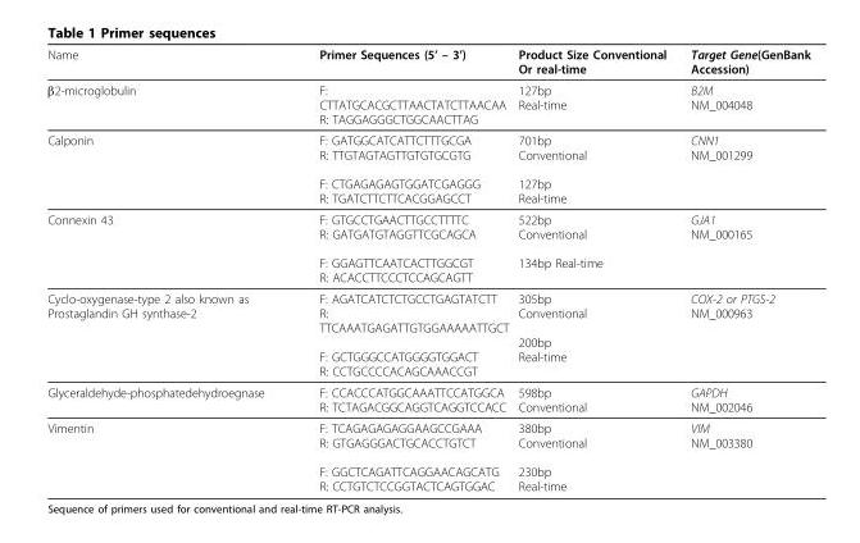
<table><thead><tr><td>Name</td><td>Primer Sequences (5’ – 3’)</td><td>Product Size Conventional Or real-time</td><td>Target Gene(GenBank Accession)</td></tr></thead><tbody><tr><td>β2-microglobulin</td><td>F: CTTATGCACGCTTAACTATCTTAACAA R: TAGGAGGGCTGGCAACTTAG</td><td>127bp Real-time</td><td>B2M NM_004048</td></tr><tr><td>Calponin</td><td>F: GATGGCATCATTCTTTGCGA R: TTGTAGTAGTTGTGTGCGTG F: CTGAGAGAGTGGATCGAGGG R: TGATCTTCTTCACGGAGCCT</td><td>701bp Conventional 127bp Real-time</td><td>CNN1 NM_001299</td></tr><tr><td>Connexin 43</td><td>F: GTGCCTGAACTTGCCTTTTC R: GATGATGTAGGTTCGCAGCA F: GGAGTTCAATCACTTGGCGT R: ACACCTTCCCTCCAGCAGTT</td><td>522bp Conventional 134bp Real-time</td><td>GJA1 NM_000165</td></tr><tr><td>Cyclo-oxygenase-type 2 also known as Prostaglandin GH synthase-2</td><td>F: AGATCATCTCTGCCTGAGTATCTT R: TTCAAATGAGATTGTGGAAAAATTGCT F: GCTGGGCCATGGGGTGGACT R: CCTGCCCCACAGCAAACCGT</td><td>305bp Conventional 200bp Real-time</td><td>COX-2 or PTGS-2 NM_000963</td></tr><tr><td>Glyceraldehyde-phosphatedehydroegnase</td><td>F: CCACCCATGGCAAATTCCATGGCA R: TCTAGACGGCAGGTCAGGTCCACC</td><td>598bp Conventional</td><td>GAPDH NM_002046</td></tr><tr><td>Vimentin</td><td>F: TCAGAGAGAGGAAGCCGAAA R: GTGAGGGACTGCACCTGTCT F: GGCTCAGATTCAGGAACAGCATG R: CCTGTCTCCGGTACTCAGTGGAC</td><td>380bp Conventional 230bp Real-time</td><td>VIM NM_003380</td></tr></tbody></table>